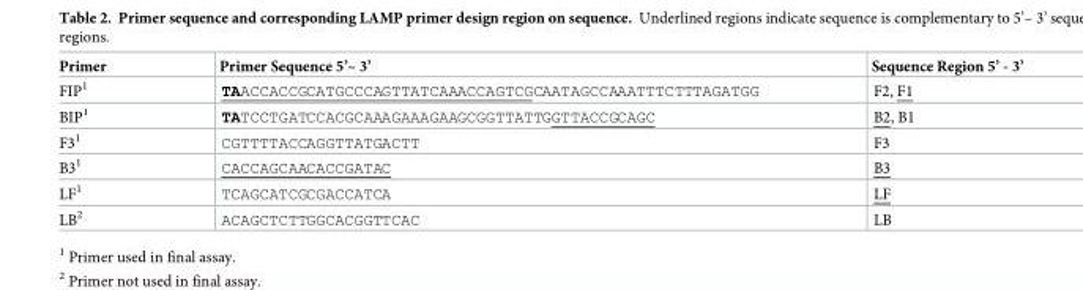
<table><thead><tr><td>Primer</td><td>Primer Sequence 5’– 3’</td><td>Sequence Region 5’ - 3’</td></tr></thead><tbody><tr><td>FIP<sup>1</sup></td><td>TAACCACCGCATGCCCAGTTATCAAACCAGTCGCAATAGCCAAATTTCTTTAGATGG</td><td>F2, F1</td></tr><tr><td>BIP<sup>1</sup></td><td>TATCCTGATCCACGCAAAGAAAGAAGCGGTTATTGGTTACCGCAGC</td><td>B2, B1</td></tr><tr><td>F3<sup>1</sup></td><td>CGTTTTACCAGGTTATGACTT</td><td>F3</td></tr><tr><td>B3<sup>1</sup></td><td>CACCAGCAACACCGATAC</td><td>B3</td></tr><tr><td>LF<sup>1</sup></td><td>TCAGCATCGCGACCATCA</td><td>LF</td></tr><tr><td>LB<sup>2</sup></td><td>ACAGCTCTTGGCACGGTTCAC</td><td>LB</td></tr></tbody></table>